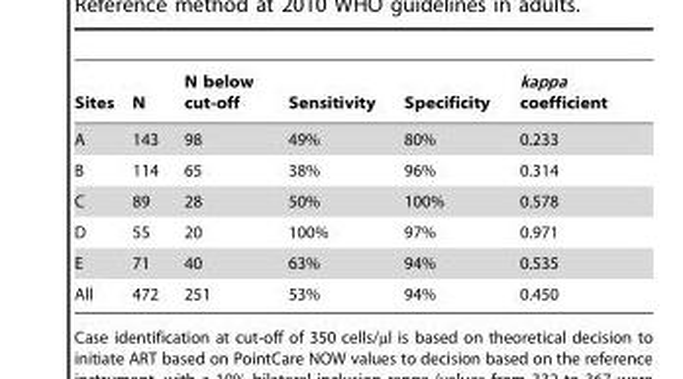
<table><thead><tr><td>Sites</td><td>N</td><td>N below cut-off</td><td>Sensitivity</td><td>Specificity</td><td>kappa coefficient</td></tr></thead><tbody><tr><td>A</td><td>143</td><td>98</td><td>49%</td><td>80%</td><td>0.233</td></tr><tr><td>B</td><td>114</td><td>65</td><td>38%</td><td>96%</td><td>0.314</td></tr><tr><td>C</td><td>89</td><td>28</td><td>50%</td><td>100%</td><td>0.578</td></tr><tr><td>D</td><td>55</td><td>20</td><td>100%</td><td>97%</td><td>0.971</td></tr><tr><td>E</td><td>71</td><td>40</td><td>63%</td><td>94%</td><td>0.535</td></tr><tr><td>All</td><td>472</td><td>251</td><td>53%</td><td>94%</td><td>0.450</td></tr></tbody></table>